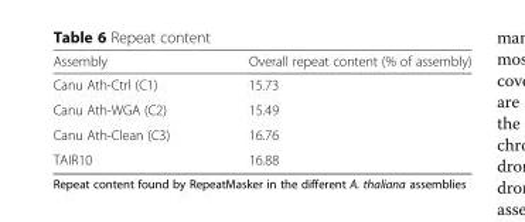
<table><thead><tr><td>Assembly</td><td>Overall repeat content (% of assembly)</td></tr></thead><tbody><tr><td>Canu Ath-Ctrl (C1)</td><td>15.73</td></tr><tr><td>Canu Ath-WGA (C2)</td><td>15.49</td></tr><tr><td>Canu Ath-Clean (C3)</td><td>16.76</td></tr><tr><td>TAIR10</td><td>16.88</td></tr></tbody></table>